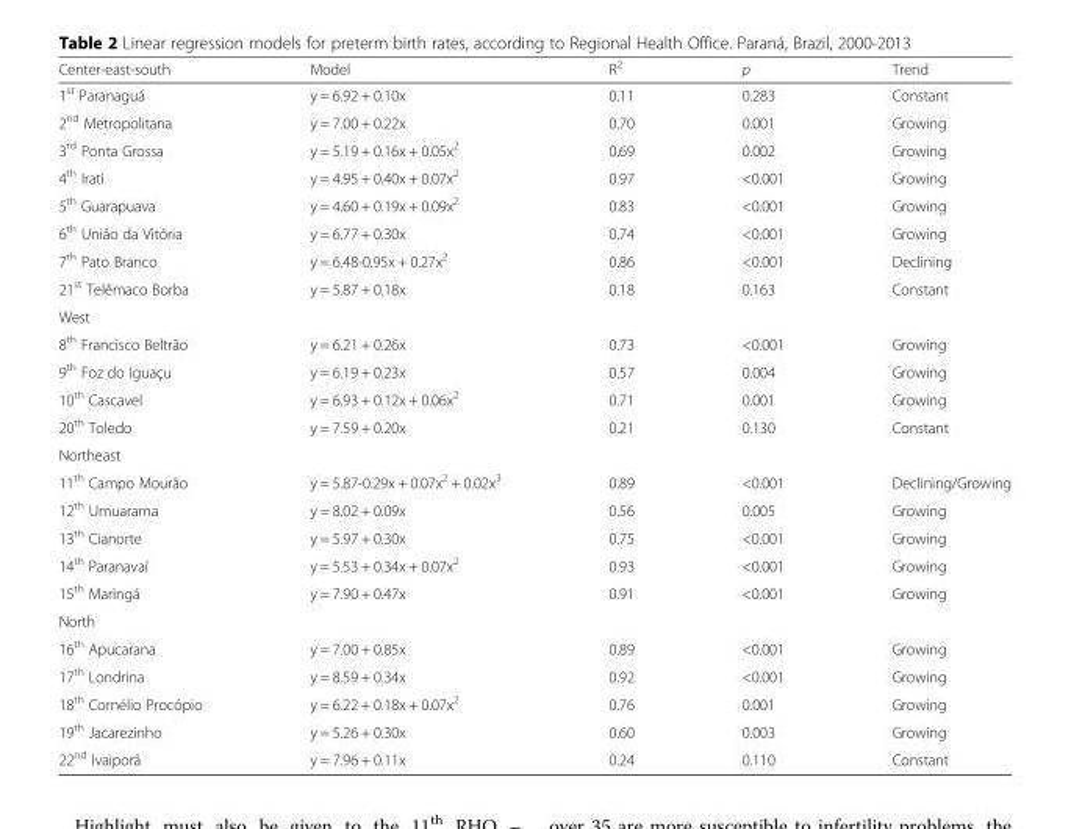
<table><thead><tr><td>Center-east-south</td><td>Model</td><td>R<sup>2</sup></td><td>p</td><td>Trend</td></tr></thead><tbody><tr><td>1<sup>st</sup> Paranaguá</td><td>y = 6.92 + 0.10x</td><td>0.11</td><td>0.283</td><td>Constant</td></tr><tr><td>2<sup>nd</sup> Metropolitana</td><td>y = 7.00 + 0.22x</td><td>0.70</td><td>0.001</td><td>Growing</td></tr><tr><td>3<sup>rd</sup> Ponta Grossa</td><td>y = 5.19 + 0.16x + 0.05x<sup>2</sup></td><td>0.69</td><td>0.002</td><td>Growing</td></tr><tr><td>4<sup>th</sup> Irati</td><td>y = 4.95 + 0.40x + 0.07x<sup>2</sup></td><td>0.97</td><td>&lt;0.001</td><td>Growing</td></tr><tr><td>5<sup>th</sup> Guarapuava</td><td>y = 4.60 + 0.19x + 0.09x<sup>2</sup></td><td>0.83</td><td>&lt;0.001</td><td>Growing</td></tr><tr><td>6<sup>th</sup> União da Vitória</td><td>y = 6.77 + 0.30x</td><td>0.74</td><td>&lt;0.001</td><td>Growing</td></tr><tr><td>7<sup>th</sup> Pato Branco</td><td>y = 6.48-0.95x + 0.27x<sup>2</sup></td><td>0.86</td><td>&lt;0.001</td><td>Declining</td></tr><tr><td>21<sup>st</sup> Telêmaco Borba</td><td>y = 5.87 + 0.18x</td><td>0.18</td><td>0.163</td><td>Constant</td></tr><tr><td colspan="5">West</td></tr><tr><td>8<sup>th</sup> Francisco Beltrão</td><td>y = 6.21 + 0.26x</td><td>0.73</td><td>&lt;0.001</td><td>Growing</td></tr><tr><td>9<sup>th</sup> Foz do Iguaçu</td><td>y = 6.19 + 0.23x</td><td>0.57</td><td>0.004</td><td>Growing</td></tr><tr><td>10<sup>th</sup> Cascavel</td><td>y = 6.93 + 0.12x + 0.06x<sup>2</sup></td><td>0.71</td><td>0.001</td><td>Growing</td></tr><tr><td>20<sup>th</sup> Toledo</td><td>y = 7.59 + 0.20x</td><td>0.21</td><td>0.130</td><td>Constant</td></tr><tr><td colspan="5">Northeast</td></tr><tr><td>11<sup>th</sup> Campo Mourão</td><td>y = 5.87-0.29x + 0.07x<sup>2</sup> + 0.02x<sup>3</sup></td><td>0.89</td><td>&lt;0.001</td><td>Declining/Growing</td></tr><tr><td>12<sup>th</sup> Umuarama</td><td>y = 8.02 + 0.09x</td><td>0.56</td><td>0.005</td><td>Growing</td></tr><tr><td>13<sup>th</sup> Cianorte</td><td>y = 5.97 + 0.30x</td><td>0.75</td><td>&lt;0.001</td><td>Growing</td></tr><tr><td>14<sup>th</sup> Paranavaí</td><td>y = 5.53 + 0.34x + 0.07x<sup>2</sup></td><td>0.93</td><td>&lt;0.001</td><td>Growing</td></tr><tr><td>15<sup>th</sup> Maringá</td><td>y = 7.90 + 0.47x</td><td>0.91</td><td>&lt;0.001</td><td>Growing</td></tr><tr><td colspan="5">North</td></tr><tr><td>16<sup>th</sup> Apucarana</td><td>y = 7.00 + 0.85x</td><td>0.89</td><td>&lt;0.001</td><td>Growing</td></tr><tr><td>17<sup>th</sup> Londrina</td><td>y = 8.59 + 0.34x</td><td>0.92</td><td>&lt;0.001</td><td>Growing</td></tr><tr><td>18<sup>th</sup> Cornélio Procópio</td><td>y = 6.22 + 0.18x + 0.07x<sup>2</sup></td><td>0.76</td><td>0.001</td><td>Growing</td></tr><tr><td>19<sup>th</sup> Jacarezinho</td><td>y = 5.26 + 0.30x</td><td>0.60</td><td>0.003</td><td>Growing</td></tr><tr><td>22<sup>nd</sup> Ivaiporã</td><td>y = 7.96 + 0.11x</td><td>0.24</td><td>0.110</td><td>Constant</td></tr></tbody></table>